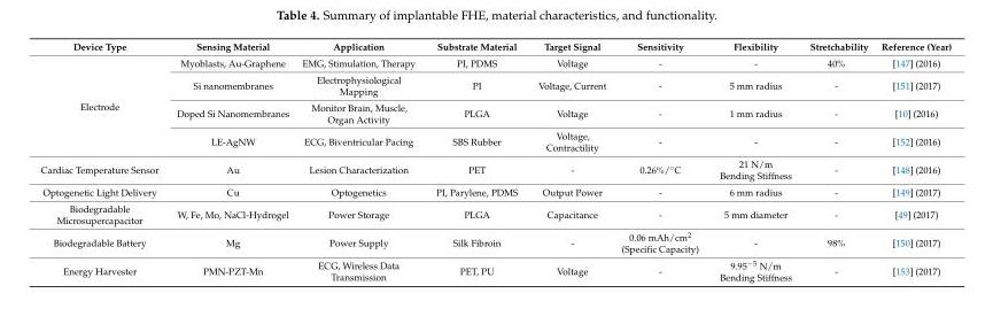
<table><thead><tr><td>Device Type</td><td>Sensing Material</td><td>Application</td><td>Substrate Material</td><td>Target Signal</td><td>Sensitivity</td><td>Flexibility</td><td>Stretchability</td><td>Reference (Year)</td></tr></thead><tbody><tr><td rowspan="4">Electrode</td><td>Myoblasts, Au-Graphene</td><td>EMG, Stimulation, Therapy</td><td>PI, PDMS</td><td>Voltage</td><td>-</td><td>-</td><td>40%</td><td>[147] (2016)</td></tr><tr><td>Si nanomembranes</td><td>Electrophysiological Mapping</td><td>PI</td><td>Voltage, Current</td><td>-</td><td>5 mm radius</td><td>-</td><td>[151] (2017)</td></tr><tr><td>Doped Si Nanomembranes</td><td>Monitor Brain, Muscle, Organ Activity</td><td>PLGA</td><td>Voltage</td><td>-</td><td>1 mm radius</td><td>-</td><td>[10] (2016)</td></tr><tr><td>LE-AgNW</td><td>ECG, Biventricular Pacing</td><td>SBS Rubber</td><td>Voltage, Contractility</td><td>-</td><td>-</td><td>-</td><td>[152] (2016)</td></tr><tr><td>Cardiac Temperature Sensor</td><td>Au</td><td>Lesion Characterization</td><td>PET</td><td>-</td><td>0.26%/◦C</td><td>21 N/m Bending Stiffness</td><td>-</td><td>[148] (2016)</td></tr><tr><td>Optogenetic Light Delivery</td><td>Cu</td><td>Optogenetics</td><td>PI, Parylene, PDMS</td><td>Output Power</td><td>-</td><td>6 mm radius</td><td>-</td><td>[149] (2017)</td></tr><tr><td>Biodegradable Microsupercapacitor</td><td>W, Fe, Mo, NaCl-Hydrogel</td><td>Power Storage</td><td>PLGA</td><td>Capacitance</td><td>-</td><td>5 mm diameter</td><td>-</td><td>[49] (2017)</td></tr><tr><td>Biodegradable Battery</td><td>Mg</td><td>Power Supply</td><td>Silk Fibroin</td><td>-</td><td>0.06 mAh/cm<sup>2</sup> (Specific Capacity)</td><td>-</td><td>98%</td><td>[150] (2017)</td></tr><tr><td>Energy Harvester</td><td>PMN-PZT-Mn</td><td>ECG, Wireless Data Transmission</td><td>PET, PU</td><td>Voltage</td><td>-</td><td>9.95<sup>−5</sup> N/m Bending Stiffness</td><td>-</td><td>[153] (2017)</td></tr></tbody></table>